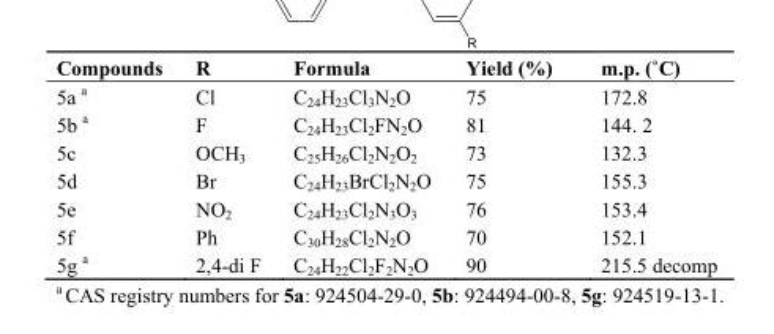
<table><thead><tr><td>Compounds</td><td>R</td><td>Formula</td><td>Yield (%)</td><td>m.p. (˚C)</td></tr></thead><tbody><tr><td>5a a</td><td>Cl</td><td>C<sub>24</sub>H<sub>23</sub>Cl<sub>3</sub>N<sub>2</sub>O</td><td>75</td><td>172.8</td></tr><tr><td>5b a</td><td>F</td><td>C<sub>24</sub>H<sub>23</sub>Cl<sub>2</sub>FN<sub>2</sub>O</td><td>81</td><td>144. 2</td></tr><tr><td>5c</td><td>OCH<sub>3</sub></td><td>C<sub>25</sub>H<sub>26</sub>Cl<sub>2</sub>N<sub>2</sub>O<sub>2</sub></td><td>73</td><td>132.3</td></tr><tr><td>5d</td><td>Br</td><td>C<sub>24</sub>H<sub>23</sub>BrCl<sub>2</sub>N<sub>2</sub>O</td><td>75</td><td>155.3</td></tr><tr><td>5e</td><td>NO<sub>2</sub></td><td>C<sub>24</sub>H<sub>23</sub>Cl<sub>2</sub>N<sub>3</sub>O<sub>3</sub></td><td>76</td><td>153.4</td></tr><tr><td>5f</td><td>Ph</td><td>C<sub>30</sub>H<sub>28</sub>Cl<sub>2</sub>N<sub>2</sub>O</td><td>70</td><td>152.1</td></tr><tr><td>5g a</td><td>2,4-di F</td><td>C<sub>24</sub>H<sub>22</sub>Cl<sub>2</sub>F<sub>2</sub>N<sub>2</sub>O</td><td>90</td><td>215.5 decomp</td></tr></tbody></table>